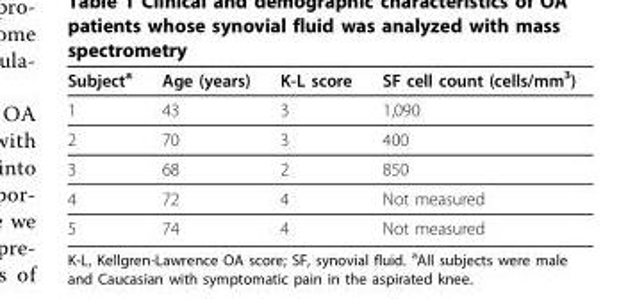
<table><thead><tr><td>Subject<sup>a</sup></td><td>Age (years)</td><td>K-L score</td><td>SF cell count (cells/mm<sup>3</sup>)</td></tr></thead><tbody><tr><td>1</td><td>43</td><td>3</td><td>1,090</td></tr><tr><td>2</td><td>70</td><td>3</td><td>400</td></tr><tr><td>3</td><td>68</td><td>2</td><td>850</td></tr><tr><td>4</td><td>72</td><td>4</td><td>Not measured</td></tr><tr><td>5</td><td>74</td><td>4</td><td>Not measured</td></tr></tbody></table>